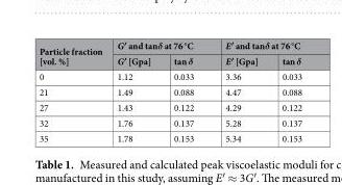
<table><thead><tr><td rowspan="2">Particle fraction [vol. %]</td><td colspan="2">G′ and tanδ at 76 °C</td><td colspan="2">E′ and tanδ at 76 °C</td></tr><tr><td>G′ [Gpa]</td><td>tan δ</td><td>E′ [Gpa]</td><td>tan δ</td></tr></thead><tbody><tr><td>0</td><td>1.12</td><td>0.033</td><td>3.36</td><td>0.033</td></tr><tr><td>21</td><td>1.49</td><td>0.088</td><td>4.47</td><td>0.088</td></tr><tr><td>27</td><td>1.43</td><td>0.122</td><td>4.29</td><td>0.122</td></tr><tr><td>32</td><td>1.76</td><td>0.137</td><td>5.28</td><td>0.137</td></tr><tr><td>35</td><td>1.78</td><td>0.153</td><td>5.34</td><td>0.153</td></tr></tbody></table>